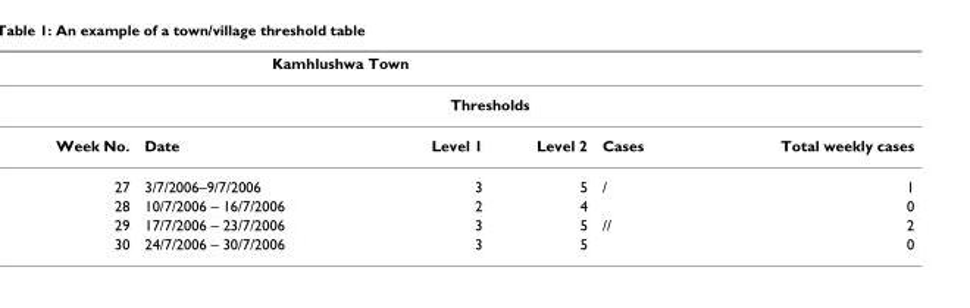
<table><thead><tr><td colspan="5">Kamhlushwa Town</td><td rowspan="3">Total weekly cases</td></tr><tr><td rowspan="2">Week No.</td><td rowspan="2">Date</td><td colspan="2">Thresholds</td><td rowspan="2">Cases</td></tr><tr><td>Level 1</td><td>Level 2</td></tr></thead><tbody><tr><td>27</td><td>3/7/2006–9/7/2006</td><td>3</td><td>5</td><td>/</td><td>1</td></tr><tr><td>28</td><td>10/7/2006 – 16/7/2006</td><td>2</td><td>4</td><td></td><td>0</td></tr><tr><td>29</td><td>17/7/2006 – 23/7/2006</td><td>3</td><td>5</td><td>//</td><td>2</td></tr><tr><td>30</td><td>24/7/2006 – 30/7/2006</td><td>3</td><td>5</td><td></td><td>0</td></tr></tbody></table>